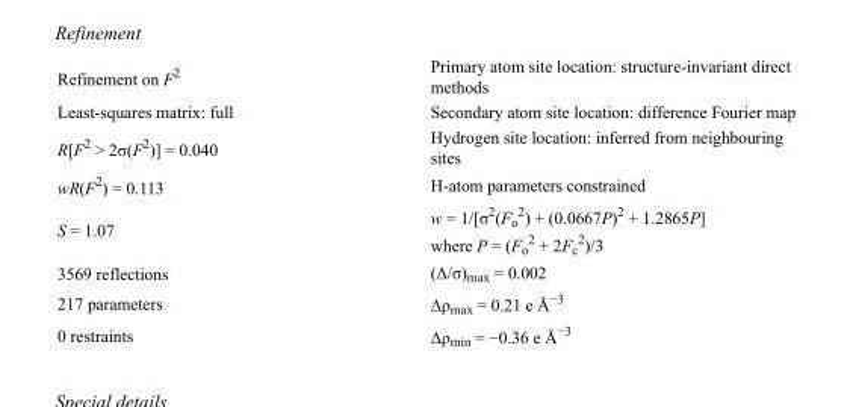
<table><tbody><tr><td>Refinement on F<sup>2</sup></td><td>Primary atom site location: structure-invariant direct methods</td></tr><tr><td>Least-squares matrix: full</td><td>Secondary atom site location: difference Fourier map</td></tr><tr><td>R[F<sup>2</sup> &gt; 2σ(F<sup>2</sup>)] = 0.040</td><td>Hydrogen site location: inferred from neighbouring sites</td></tr><tr><td>wR(F<sup>2</sup>) = 0.113</td><td>H-atom parameters constrained</td></tr><tr><td>S = 1.07</td><td>w = 1/[σ<sup>2</sup>(F<sub>o</sub> <sup>2</sup>) + (0.0667P)<sup>2</sup> + 1.2865P] where P = (F<sub>o</sub> <sup>2</sup> + 2F<sub>c</sub> <sup>2</sup>)/3</td></tr><tr><td>3569 reflections</td><td>(Δ/σ)<sub>max</sub> = 0.002</td></tr><tr><td>217 parameters</td><td>Δρ<sub>max</sub> = 0.21 e Å<sup>−3</sup></td></tr><tr><td>0 restraints</td><td>Δρ<sub>min</sub> = −0.36 e Å<sup>−3</sup></td></tr></tbody></table>